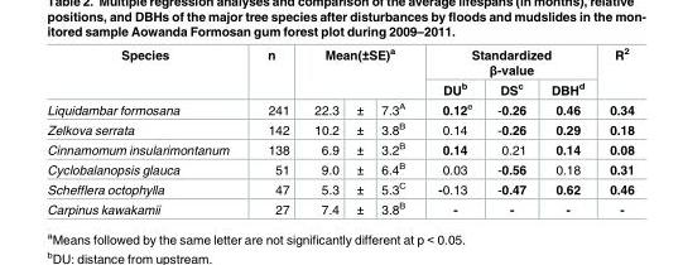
<table><thead><tr><td rowspan="3">Species Liquidambar formosana</td><td rowspan="3">n 241</td><td rowspan="2" colspan="3">Mean(±SE)<sup>a</sup></td><td colspan="3">Standardized β-value</td><td rowspan="3">R<sup>2</sup> 0.34</td></tr><tr><td rowspan="2">DU<sup>b</sup> 0.12<sup>e</sup></td><td rowspan="2">DS<sup>c</sup> -0.26</td><td rowspan="2">DBH<sup>d</sup> 0.46</td></tr><tr><td>22.3</td><td>±</td><td>7.3<sup>A</sup></td></tr></thead><tbody><tr><td>Zelkova serrata</td><td>142</td><td>10.2</td><td>±</td><td>3.8<sup>B</sup></td><td>0.14</td><td>-0.26</td><td>0.29</td><td>0.18</td></tr><tr><td>Cinnamomum insularimontanum</td><td>138</td><td>6.9</td><td>±</td><td>3.2<sup>B</sup></td><td>0.14</td><td>0.21</td><td>0.14</td><td>0.08</td></tr><tr><td>Cyclobalanopsis glauca</td><td>51</td><td>9.0</td><td>±</td><td>6.4<sup>B</sup></td><td>0.03</td><td>-0.56</td><td>0.18</td><td>0.31</td></tr><tr><td>Schefflera octophylla</td><td>47</td><td>5.3</td><td>±</td><td>5.3<sup>C</sup></td><td>-0.13</td><td>-0.47</td><td>0.62</td><td>0.46</td></tr><tr><td>Carpinus kawakamii</td><td>27</td><td>7.4</td><td>±</td><td>3.8<sup>B</sup></td><td>-</td><td>-</td><td>-</td><td>-</td></tr></tbody></table>